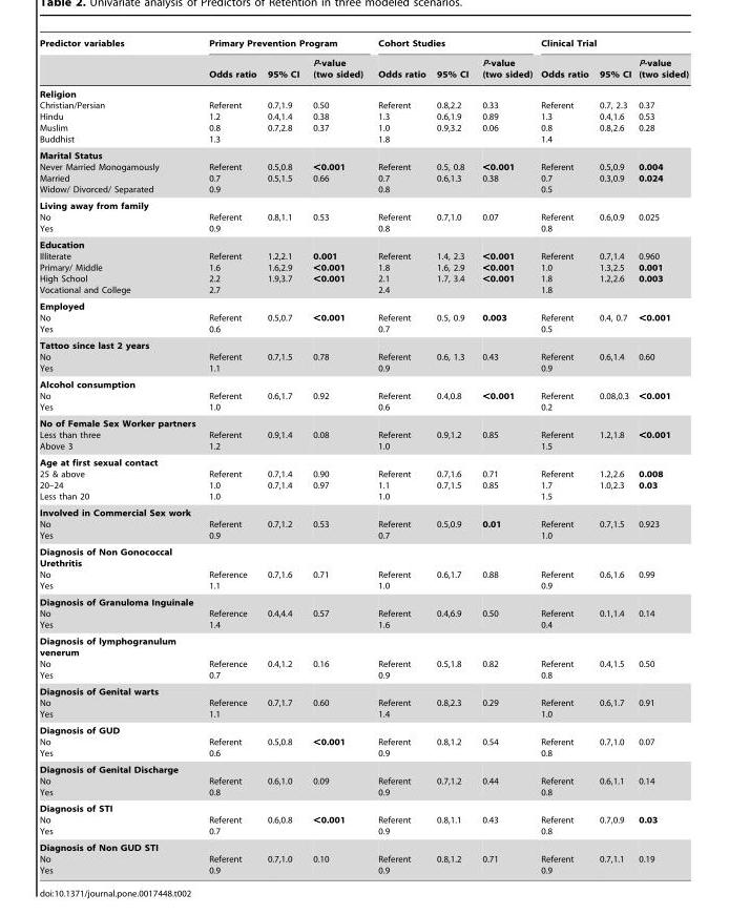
<table><thead><tr><td rowspan="2">Predictor variables</td><td colspan="3">Primary Prevention Program</td><td colspan="3">Cohort Studies</td><td colspan="3">Clinical Trial</td></tr><tr><td>Odds ratio</td><td>95% CI</td><td>P-value (two sided)</td><td>Odds ratio</td><td>95% CI</td><td>P-value (two sided)</td><td>Odds ratio</td><td>95% CI</td><td>P-value (two sided)</td></tr></thead><tbody><tr><td>Religion Christian/Persian Hindu Muslim Buddhist</td><td>Referent 1.2 0.8 1.3</td><td>0.7,1.9 0.4,1.4 0.7,2.8</td><td>0.50 0.38 0.37</td><td>Referent 1.3 1.0 1.8</td><td>0.8,2.2 0.6,1.9 0.9,3.2</td><td>0.33 0.89 0.06</td><td>Referent 1.3 0.8 1.4</td><td>0.7, 2.3 0.4,1.6 0.8,2.6</td><td>0.37 0.53 0.28</td></tr><tr><td>Marital Status Never Married Monogamously Married Widow/ Divorced/ Separated</td><td>Referent 0.7 0.9</td><td>0.5,0.8 0.5,1.5</td><td>&lt;0.001 0.66</td><td>Referent 0.7 0.8</td><td>0.5, 0.8 0.6,1.3</td><td>&lt;0.001 0.38</td><td>Referent 0.7 0.5</td><td>0.5,0.9 0.3,0.9</td><td>0.004 0.024</td></tr><tr><td>Living away from family No Yes</td><td>Referent 0.9</td><td>0.8,1.1</td><td>0.53</td><td>Referent 0.8</td><td>0.7,1.0</td><td>0.07</td><td>Referent 0.8</td><td>0.6,0.9</td><td>0.025</td></tr><tr><td>Education Illiterate Primary/ Middle High School Vocational and College</td><td>Referent 1.6 2.2 2.7</td><td>1.2,2.1 1.6,2.9 1.9,3.7</td><td>0.001 &lt;0.001 &lt;0.001</td><td>Referent 1.8 2.1 2.4</td><td>1.4, 2.3 1.6, 2.9 1.7, 3.4</td><td>&lt;0.001 &lt;0.001 &lt;0.001</td><td>Referent 1.0 1.8 1.8</td><td>0.7,1.4 1.3,2.5 1.2,2.6</td><td>0.960 0.001 0.003</td></tr><tr><td>Employed No Yes</td><td>Referent 0.6</td><td>0.5,0.7</td><td>&lt;0.001</td><td>Referent 0.7</td><td>0.5, 0.9</td><td>0.003</td><td>Referent 0.5</td><td>0.4, 0.7</td><td>&lt;0.001</td></tr><tr><td>Tattoo since last 2 years No Yes</td><td>Referent 1.1</td><td>0.7,1.5</td><td>0.78</td><td>Referent 0.9</td><td>0.6, 1.3</td><td>0.43</td><td>Referent 0.9</td><td>0.6,1.4</td><td>0.60</td></tr><tr><td>Alcohol consumption No Yes</td><td>Referent 1.0</td><td>0.6,1.7</td><td>0.92</td><td>Referent 0.6</td><td>0.4,0.8</td><td>&lt;0.001</td><td>Referent 0.2</td><td>0.08,0.3</td><td>&lt;0.001</td></tr><tr><td>No of Female Sex Worker partners Less than three Above 3</td><td>Referent 1.2</td><td>0.9,1.4</td><td>0.08</td><td>Referent 1.0</td><td>0.9,1.2</td><td>0.85</td><td>Referent 1.5</td><td>1.2,1.8</td><td>&lt;0.001</td></tr><tr><td>Age at first sexual contact 25 &amp; above 20–24 Less than 20</td><td>Referent 1.0 1.0</td><td>0.7,1.4 0.7,1.4</td><td>0.90 0.97</td><td>Referent 1.1 1.0</td><td>0.7,1.6 0.7,1.5</td><td>0.71 0.85</td><td>Referent 1.7 1.5</td><td>1.2,2.6 1.0,2.3</td><td>0.008 0.03</td></tr><tr><td>Involved in Commercial Sex work No Yes</td><td>Referent 0.9</td><td>0.7,1.2</td><td>0.53</td><td>Referent 0.7</td><td>0.5,0.9</td><td>0.01</td><td>Referent 1.0</td><td>0.7,1.5</td><td>0.923</td></tr><tr><td>Diagnosis of Non Gonococcal Urethritis No Yes</td><td>Reference 1.1</td><td>0.7,1.6</td><td>0.71</td><td>Referent 1.0</td><td>0.6,1.7</td><td>0.88</td><td>Referent 0.9</td><td>0.6,1.6</td><td>0.99</td></tr><tr><td>Diagnosis of Granuloma Inguinale No Yes</td><td>Reference 1.4</td><td>0.4,4.4</td><td>0.57</td><td>Referent 1.6</td><td>0.4,6.9</td><td>0.50</td><td>Referent 0.4</td><td>0.1,1.4</td><td>0.14</td></tr><tr><td>Diagnosis of lymphogranulum venerum No Yes</td><td>Reference 0.7</td><td>0.4,1.2</td><td>0.16</td><td>Referent 0.9</td><td>0.5,1.8</td><td>0.82</td><td>Referent 0.8</td><td>0.4,1.5</td><td>0.50</td></tr><tr><td>Diagnosis of Genital warts No Yes</td><td>Reference 1.1</td><td>0.7,1.7</td><td>0.60</td><td>Referent 1.4</td><td>0.8,2.3</td><td>0.29</td><td>Referent 1.0</td><td>0.6,1.7</td><td>0.91</td></tr><tr><td>Diagnosis of GUD No Yes</td><td>Referent 0.6</td><td>0.5,0.8</td><td>&lt;0.001</td><td>Referent 0.9</td><td>0.8,1.2</td><td>0.54</td><td>Referent 0.8</td><td>0.7,1.0</td><td>0.07</td></tr><tr><td>Diagnosis of Genital Discharge No Yes</td><td>Referent 0.8</td><td>0.6,1.0</td><td>0.09</td><td>Referent 0.9</td><td>0.7,1.2</td><td>0.44</td><td>Referent 0.8</td><td>0.6,1.1</td><td>0.14</td></tr><tr><td>Diagnosis of STI No Yes</td><td>Referent 0.7</td><td>0.6,0.8</td><td>&lt;0.001</td><td>Referent 0.9</td><td>0.8,1.1</td><td>0.43</td><td>Referent 0.8</td><td>0.7,0.9</td><td>0.03</td></tr><tr><td>Diagnosis of Non GUD STI No Yes</td><td>Referent 0.9</td><td>0.7,1.0</td><td>0.10</td><td>Referent 0.9</td><td>0.8,1.2</td><td>0.71</td><td>Referent 0.9</td><td>0.7,1.1</td><td>0.19</td></tr></tbody></table>